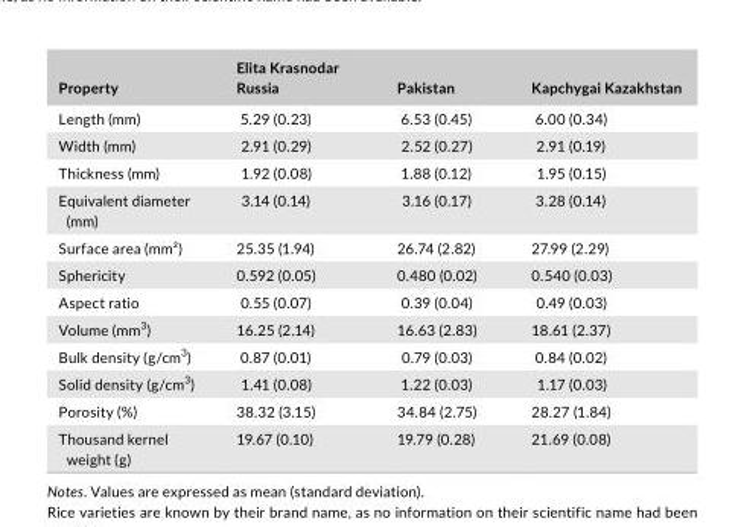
<table><thead><tr><td>Property</td><td>Elita Krasnodar Russia</td><td>Pakistan</td><td>Kapchygai Kazakhstan</td></tr></thead><tbody><tr><td>Length (mm)</td><td>5.29 (0.23)</td><td>6.53 (0.45)</td><td>6.00 (0.34)</td></tr><tr><td>Width (mm)</td><td>2.91 (0.29)</td><td>2.52 (0.27)</td><td>2.91 (0.19)</td></tr><tr><td>Thickness (mm)</td><td>1.92 (0.08)</td><td>1.88 (0.12)</td><td>1.95 (0.15)</td></tr><tr><td>Equivalent diameter (mm)</td><td>3.14 (0.14)</td><td>3.16 (0.17)</td><td>3.28 (0.14)</td></tr><tr><td>Surface area (mm²)</td><td>25.35 (1.94)</td><td>26.74 (2.82)</td><td>27.99 (2.29)</td></tr><tr><td>Sphericity</td><td>0.592 (0.05)</td><td>0.480 (0.02)</td><td>0.540 (0.03)</td></tr><tr><td>Aspect ratio</td><td>0.55 (0.07)</td><td>0.39 (0.04)</td><td>0.49 (0.03)</td></tr><tr><td>Volume (mm<sup>3</sup>)</td><td>16.25 (2.14)</td><td>16.63 (2.83)</td><td>18.61 (2.37)</td></tr><tr><td>Bulk density (g/cm<sup>3</sup>)</td><td>0.87 (0.01)</td><td>0.79 (0.03)</td><td>0.84 (0.02)</td></tr><tr><td>Solid density (g/cm<sup>3</sup>)</td><td>1.41 (0.08)</td><td>1.22 (0.03)</td><td>1.17 (0.03)</td></tr><tr><td>Porosity (%)</td><td>38.32 (3.15)</td><td>34.84 (2.75)</td><td>28.27 (1.84)</td></tr><tr><td>Thousand kernel weight (g)</td><td>19.67 (0.10)</td><td>19.79 (0.28)</td><td>21.69 (0.08)</td></tr></tbody></table>